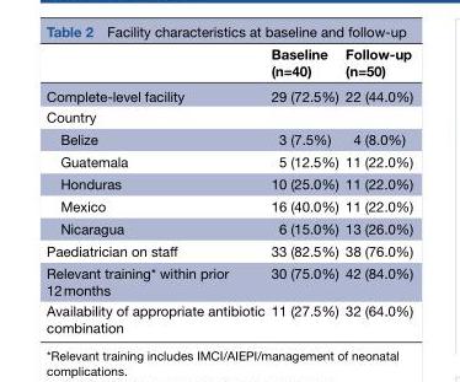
<table><thead><tr><td></td><td>Baseline (n=40)</td><td>Follow-up (n=50)</td></tr></thead><tbody><tr><td>Complete-level facility</td><td>29 (72.5%)</td><td>22 (44.0%)</td></tr><tr><td colspan="3">Country</td></tr><tr><td>Belize</td><td>3 (7.5%)</td><td>4 (8.0%)</td></tr><tr><td>Guatemala</td><td>5 (12.5%)</td><td>11 (22.0%)</td></tr><tr><td>Honduras</td><td>10 (25.0%)</td><td>11 (22.0%)</td></tr><tr><td>Mexico</td><td>16 (40.0%)</td><td>11 (22.0%)</td></tr><tr><td>Nicaragua</td><td>6 (15.0%)</td><td>13 (26.0%)</td></tr><tr><td>Paediatrician on staff</td><td>33 (82.5%)</td><td>38 (76.0%)</td></tr><tr><td>Relevant training* within prior 12 months</td><td>30 (75.0%)</td><td>42 (84.0%)</td></tr><tr><td>Availability of appropriate antibiotic combination</td><td>11 (27.5%)</td><td>32 (64.0%)</td></tr></tbody></table>